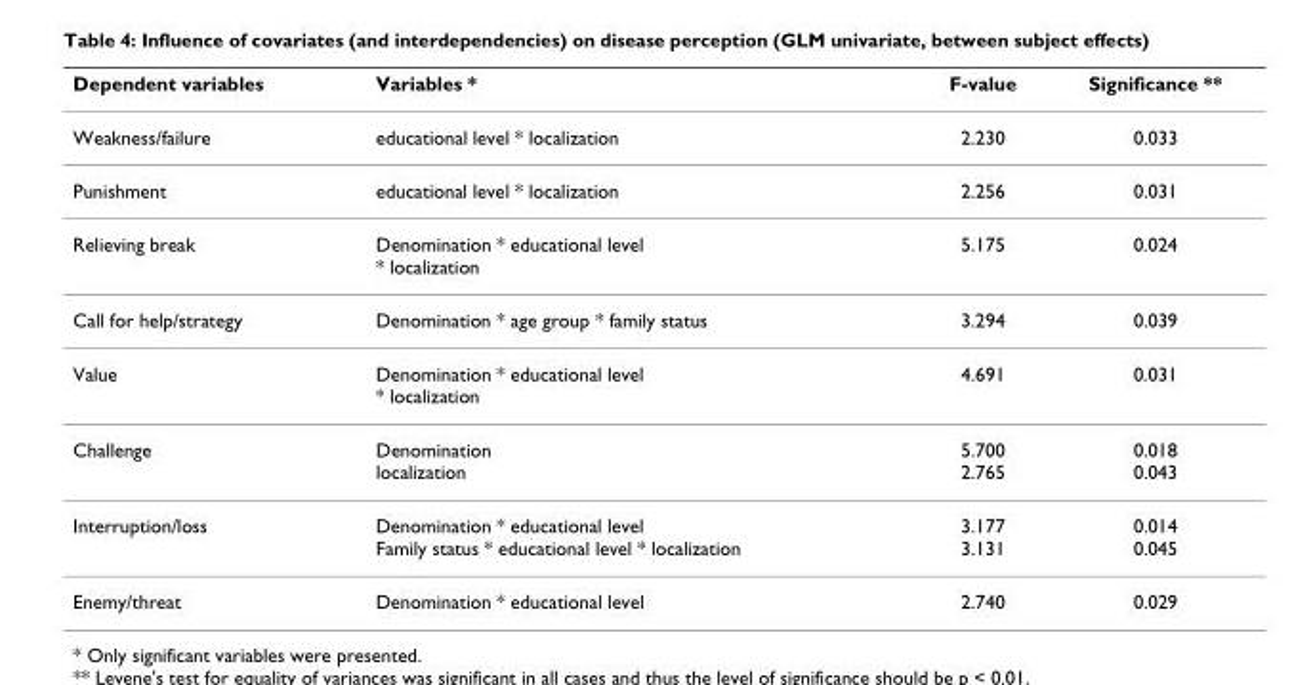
<table><thead><tr><td>Dependent variables</td><td>Variables *</td><td>F-value</td><td>Significance **</td></tr></thead><tbody><tr><td>Weakness/failure</td><td>educational level * localization</td><td>2.230</td><td>0.033</td></tr><tr><td>Punishment</td><td>educational level * localization</td><td>2.256</td><td>0.031</td></tr><tr><td>Relieving break</td><td>Denomination * educational level * localization</td><td>5.175</td><td>0.024</td></tr><tr><td>Call for help/strategy</td><td>Denomination * age group * family status</td><td>3.294</td><td>0.039</td></tr><tr><td>Value</td><td>Denomination * educational level * localization</td><td>4.691</td><td>0.031</td></tr><tr><td>Challenge</td><td>Denomination localization</td><td>5.700 2.765</td><td>0.018 0.043</td></tr><tr><td>Interruption/loss</td><td>Denomination * educational level Family status * educational level * localization</td><td>3.177 3.131</td><td>0.014 0.045</td></tr><tr><td>Enemy/threat</td><td>Denomination * educational level</td><td>2.740</td><td>0.029</td></tr></tbody></table>